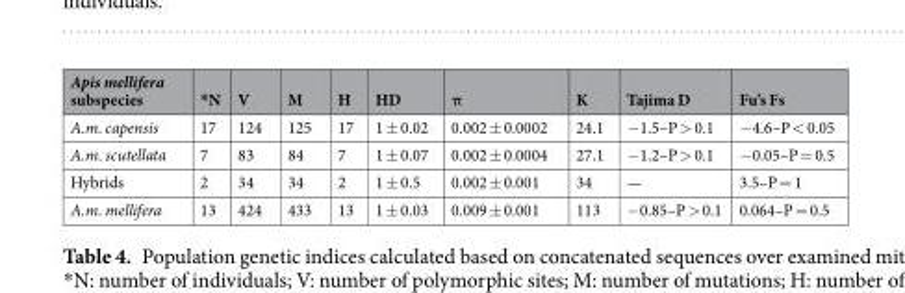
<table><thead><tr><td>Apis mellifera subspecies</td><td>*N</td><td>V</td><td>M</td><td>H</td><td>HD</td><td>π</td><td>K</td><td>Tajima D</td><td>Fu’s Fs</td></tr></thead><tbody><tr><td>A.m. capensis</td><td>17</td><td>124</td><td>125</td><td>17</td><td>1 ± 0.02</td><td>0.002 ± 0.0002</td><td>24.1</td><td>−1.5–P &gt; 0.1</td><td>−4.6–P &lt; 0.05</td></tr><tr><td>A.m. scutellata</td><td>7</td><td>83</td><td>84</td><td>7</td><td>1 ± 0.07</td><td>0.002 ± 0.0004</td><td>27.1</td><td>−1.2–P &gt; 0.1</td><td>−0.05–P = 0.5</td></tr><tr><td>Hybrids</td><td>2</td><td>34</td><td>34</td><td>2</td><td>1 ± 0.5</td><td>0.002 ± 0.001</td><td>34</td><td>—</td><td>3.5–P = 1</td></tr><tr><td>A.m. mellifera</td><td>13</td><td>424</td><td>433</td><td>13</td><td>1 ± 0.03</td><td>0.009 ± 0.001</td><td>113</td><td>−0.85–P &gt; 0.1</td><td>0.064–P = 0.5</td></tr></tbody></table>